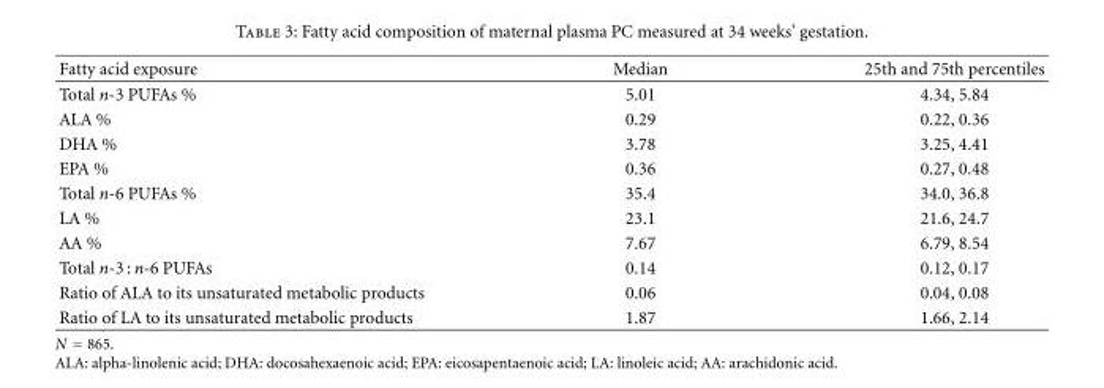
<table><thead><tr><td>Fatty acid exposure</td><td>Median</td><td>25th and 75th percentiles</td></tr></thead><tbody><tr><td>Total n-3 PUFAs %</td><td>5.01</td><td>4.34, 5.84</td></tr><tr><td>ALA %</td><td>0.29</td><td>0.22, 0.36</td></tr><tr><td>DHA %</td><td>3.78</td><td>3.25, 4.41</td></tr><tr><td>EPA %</td><td>0.36</td><td>0.27, 0.48</td></tr><tr><td>Total n-6 PUFAs %</td><td>35.4</td><td>34.0, 36.8</td></tr><tr><td>LA %</td><td>23.1</td><td>21.6, 24.7</td></tr><tr><td>AA %</td><td>7.67</td><td>6.79, 8.54</td></tr><tr><td>Total n-3 : n-6 PUFAs</td><td>0.14</td><td>0.12, 0.17</td></tr><tr><td>Ratio of ALA to its unsaturated metabolic products</td><td>0.06</td><td>0.04, 0.08</td></tr><tr><td>Ratio of LA to its unsaturated metabolic products</td><td>1.87</td><td>1.66, 2.14</td></tr></tbody></table>